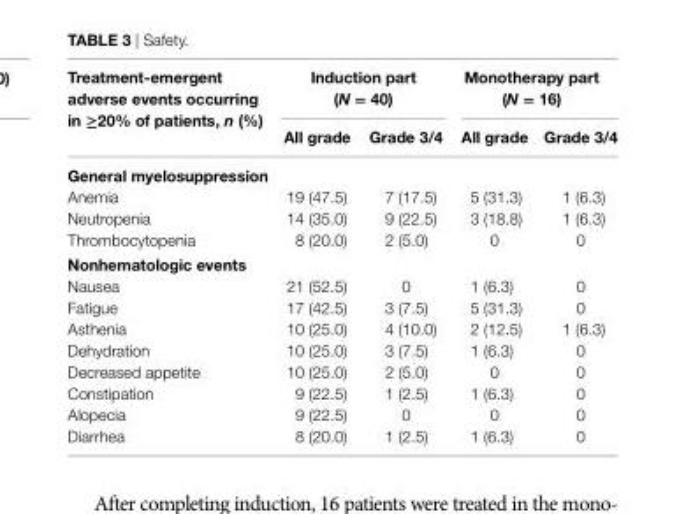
<table><thead><tr><td rowspan="2">Treatment-emergent adverse events occurring in ≥20% of patients, n (%)</td><td colspan="2">induction part (N = 40)</td><td colspan="2">Monotherapy part (N = 16)</td></tr><tr><td>all grade</td><td>grade 3/4</td><td>all grade</td><td>grade 3/4</td></tr></thead><tbody><tr><td colspan="5">general myelosuppression</td></tr><tr><td>Anemia</td><td>19 (47.5)</td><td>7 (17.5)</td><td>5 (31.3)</td><td>1 (6.3)</td></tr><tr><td>Neutropenia</td><td>14 (35.0)</td><td>9 (22.5)</td><td>3 (18.8)</td><td>1 (6.3)</td></tr><tr><td>Thrombocytopenia</td><td>8 (20.0)</td><td>2 (5.0)</td><td>0</td><td>0</td></tr><tr><td colspan="5">nonhematologic events</td></tr><tr><td>Nausea</td><td>21 (52.5)</td><td>0</td><td>1 (6.3)</td><td>0</td></tr><tr><td>Fatigue</td><td>17 (42.5)</td><td>3 (7.5)</td><td>5 (31.3)</td><td>0</td></tr><tr><td>Asthenia</td><td>10 (25.0)</td><td>4 (10.0)</td><td>2 (12.5)</td><td>1 (6.3)</td></tr><tr><td>Dehydration</td><td>10 (25.0)</td><td>3 (7.5)</td><td>1 (6.3)</td><td>0</td></tr><tr><td>Decreased appetite</td><td>10 (25.0)</td><td>2 (5.0)</td><td>0</td><td>0</td></tr><tr><td>Constipation</td><td>9 (22.5)</td><td>1 (2.5)</td><td>1 (6.3)</td><td>0</td></tr><tr><td>Alopecia</td><td>9 (22.5)</td><td>0</td><td>0</td><td>0</td></tr><tr><td>Diarrhea</td><td>8 (20.0)</td><td>1 (2.5)</td><td>1 (6.3)</td><td>0</td></tr></tbody></table>